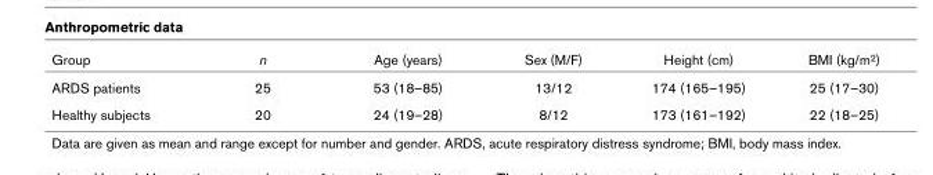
<table><thead><tr><td>Group</td><td>n</td><td>Age (years)</td><td>Sex (M/F)</td><td>Height (cm)</td><td>BMI (kg/m2)</td></tr></thead><tbody><tr><td>ARDS patients</td><td>25</td><td>53 (18–85)</td><td>13/12</td><td>174 (165–195)</td><td>25 (17–30)</td></tr><tr><td>Healthy subjects</td><td>20</td><td>24 (19–28)</td><td>8/12</td><td>173 (161–192)</td><td>22 (18–25)</td></tr></tbody></table>